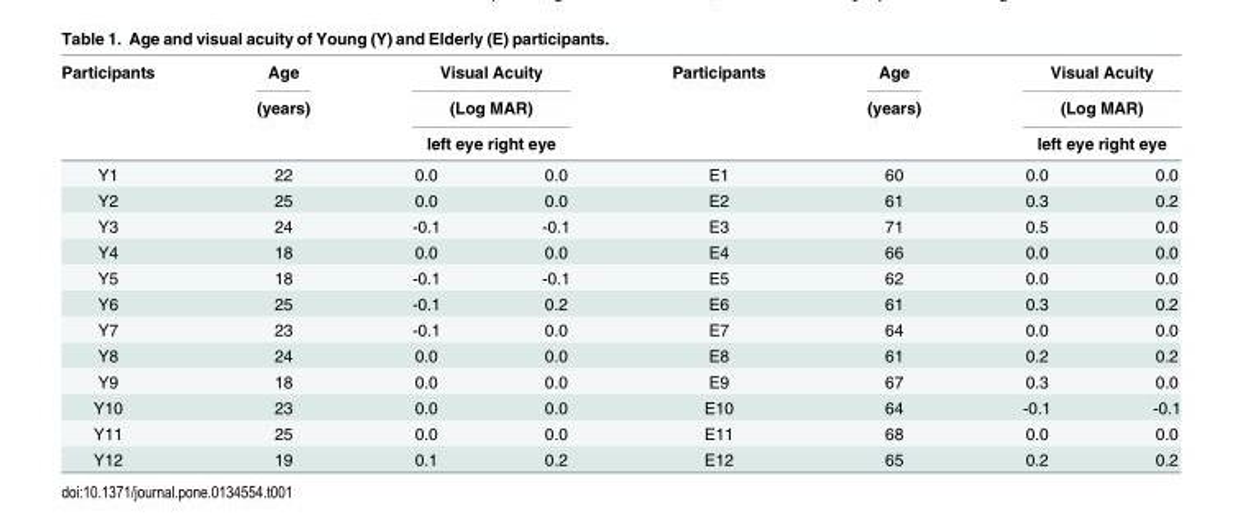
<table><thead><tr><td rowspan="4">Participants Y1</td><td rowspan="4">Age (years) 22</td><td rowspan="3" colspan="2">Visual Acuity (Log MAR) left eye right eye</td><td rowspan="4">Participants E1</td><td rowspan="4">Age (years) 60</td><td rowspan="3" colspan="2">Visual Acuity (Log MAR) left eye right eye</td></tr><tr></tr><tr></tr><tr><td>0.0</td><td>0.0</td><td>0.0</td><td>0.0</td></tr></thead><tbody><tr><td>Y2</td><td>25</td><td>0.0</td><td>0.0</td><td>E2</td><td>61</td><td>0.3</td><td>0.2</td></tr><tr><td>Y3</td><td>24</td><td>-0.1</td><td>-0.1</td><td>E3</td><td>71</td><td>0.5</td><td>0.0</td></tr><tr><td>Y4</td><td>18</td><td>0.0</td><td>0.0</td><td>E4</td><td>66</td><td>0.0</td><td>0.0</td></tr><tr><td>Y5</td><td>18</td><td>-0.1</td><td>-0.1</td><td>E5</td><td>62</td><td>0.0</td><td>0.0</td></tr><tr><td>Y6</td><td>25</td><td>-0.1</td><td>0.2</td><td>E6</td><td>61</td><td>0.3</td><td>0.2</td></tr><tr><td>Y7</td><td>23</td><td>-0.1</td><td>0.0</td><td>E7</td><td>64</td><td>0.0</td><td>0.0</td></tr><tr><td>Y8</td><td>24</td><td>0.0</td><td>0.0</td><td>E8</td><td>61</td><td>0.2</td><td>0.2</td></tr><tr><td>Y9</td><td>18</td><td>0.0</td><td>0.0</td><td>E9</td><td>67</td><td>0.3</td><td>0.0</td></tr><tr><td>Y10</td><td>23</td><td>0.0</td><td>0.0</td><td>E10</td><td>64</td><td>-0.1</td><td>-0.1</td></tr><tr><td>Y11</td><td>25</td><td>0.0</td><td>0.0</td><td>E11</td><td>68</td><td>0.0</td><td>0.0</td></tr><tr><td>Y12</td><td>19</td><td>0.1</td><td>0.2</td><td>E12</td><td>65</td><td>0.2</td><td>0.2</td></tr></tbody></table>